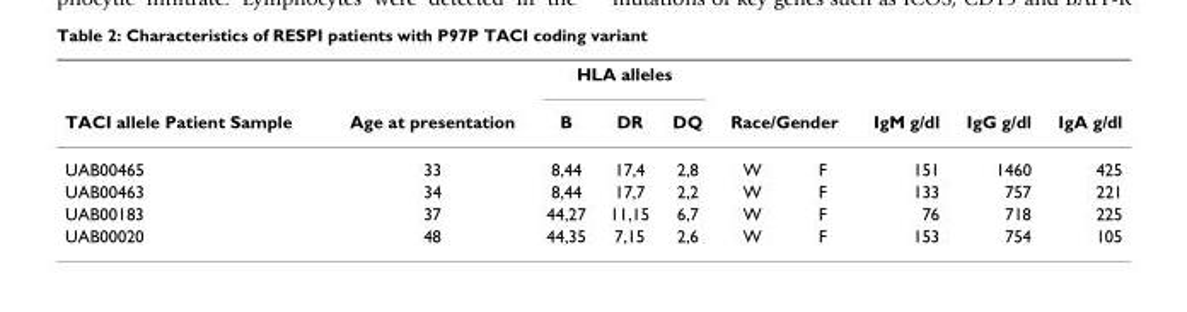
<table><thead><tr><td rowspan="2">TACI allele Patient Sample</td><td rowspan="2">Age at presentation</td><td colspan="3">HLA alleles</td><td></td><td></td><td rowspan="2">IgM g/dl</td><td rowspan="2">IgG g/dl</td><td rowspan="2">IgA g/dl</td></tr><tr><td>B</td><td>DR</td><td>DQ</td><td colspan="2">Race/Gender</td></tr></thead><tbody><tr><td>UAB00465</td><td>33</td><td>8,44</td><td>17,4</td><td>2,8</td><td>W</td><td>F</td><td>151</td><td>1460</td><td>425</td></tr><tr><td>UAB00463</td><td>34</td><td>8,44</td><td>17,7</td><td>2,2</td><td>W</td><td>F</td><td>133</td><td>757</td><td>221</td></tr><tr><td>UAB00183</td><td>37</td><td>44,27</td><td>11,15</td><td>6,7</td><td>W</td><td>F</td><td>76</td><td>718</td><td>225</td></tr><tr><td>UAB00020</td><td>48</td><td>44,35</td><td>7,15</td><td>2,6</td><td>W</td><td>F</td><td>153</td><td>754</td><td>105</td></tr></tbody></table>